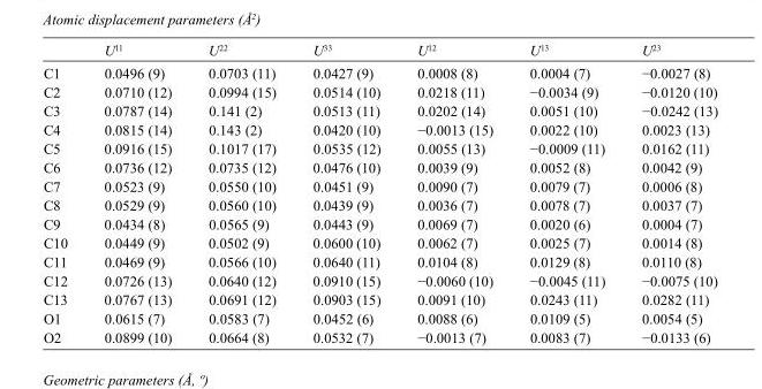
<table><thead><tr><td></td><td>U<sup>11</sup></td><td>U<sup>22</sup></td><td>U<sup>33</sup></td><td>U<sup>12</sup></td><td>U<sup>13</sup></td><td>U<sup>23</sup></td></tr></thead><tbody><tr><td>C1</td><td>0.0496 (9)</td><td>0.0703 (11)</td><td>0.0427 (9)</td><td>0.0008 (8)</td><td>0.0004 (7)</td><td>−0.0027 (8)</td></tr><tr><td>C2</td><td>0.0710 (12)</td><td>0.0994 (15)</td><td>0.0514 (10)</td><td>0.0218 (11)</td><td>−0.0034 (9)</td><td>−0.0120 (10)</td></tr><tr><td>C3</td><td>0.0787 (14)</td><td>0.141 (2)</td><td>0.0513 (11)</td><td>0.0202 (14)</td><td>0.0051 (10)</td><td>−0.0242 (13)</td></tr><tr><td>C4</td><td>0.0815 (14)</td><td>0.143 (2)</td><td>0.0420 (10)</td><td>−0.0013 (15)</td><td>0.0022 (10)</td><td>0.0023 (13)</td></tr><tr><td>C5</td><td>0.0916 (15)</td><td>0.1017 (17)</td><td>0.0535 (12)</td><td>0.0055 (13)</td><td>−0.0009 (11)</td><td>0.0162 (11)</td></tr><tr><td>C6</td><td>0.0736 (12)</td><td>0.0735 (12)</td><td>0.0476 (10)</td><td>0.0039 (9)</td><td>0.0052 (8)</td><td>0.0042 (9)</td></tr><tr><td>C7</td><td>0.0523 (9)</td><td>0.0550 (10)</td><td>0.0451 (9)</td><td>0.0090 (7)</td><td>0.0079 (7)</td><td>0.0006 (8)</td></tr><tr><td>C8</td><td>0.0529 (9)</td><td>0.0560 (10)</td><td>0.0439 (9)</td><td>0.0036 (7)</td><td>0.0078 (7)</td><td>0.0037 (7)</td></tr><tr><td>C9</td><td>0.0434 (8)</td><td>0.0565 (9)</td><td>0.0443 (9)</td><td>0.0069 (7)</td><td>0.0020 (6)</td><td>0.0004 (7)</td></tr><tr><td>C10</td><td>0.0449 (9)</td><td>0.0502 (9)</td><td>0.0600 (10)</td><td>0.0062 (7)</td><td>0.0025 (7)</td><td>0.0014 (8)</td></tr><tr><td>C11</td><td>0.0469 (9)</td><td>0.0566 (10)</td><td>0.0640 (11)</td><td>0.0104 (8)</td><td>0.0129 (8)</td><td>0.0110 (8)</td></tr><tr><td>C12</td><td>0.0726 (13)</td><td>0.0640 (12)</td><td>0.0910 (15)</td><td>−0.0060 (10)</td><td>−0.0045 (11)</td><td>−0.0075 (10)</td></tr><tr><td>C13</td><td>0.0767 (13)</td><td>0.0691 (12)</td><td>0.0903 (15)</td><td>0.0091 (10)</td><td>0.0243 (11)</td><td>0.0282 (11)</td></tr><tr><td>O1</td><td>0.0615 (7)</td><td>0.0583 (7)</td><td>0.0452 (6)</td><td>0.0088 (6)</td><td>0.0109 (5)</td><td>0.0054 (5)</td></tr><tr><td>O2</td><td>0.0899 (10)</td><td>0.0664 (8)</td><td>0.0532 (7)</td><td>−0.0013 (7)</td><td>0.0083 (7)</td><td>−0.0133 (6)</td></tr></tbody></table>